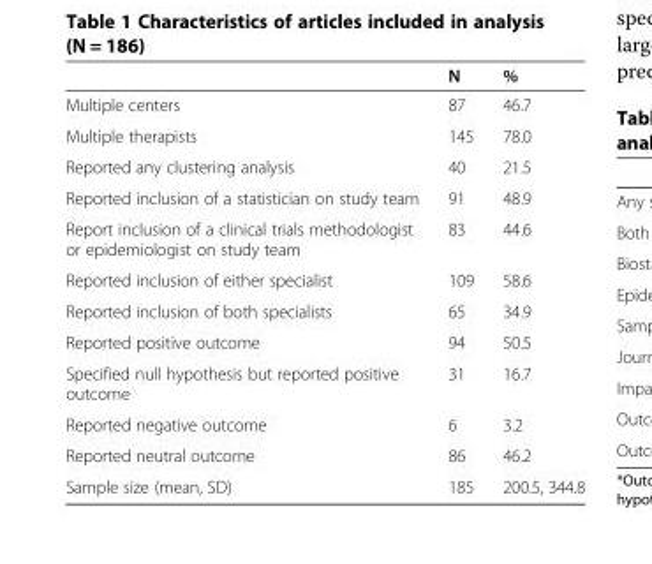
<table><thead><tr><td></td><td>N</td><td>%</td></tr></thead><tbody><tr><td>Multiple centers</td><td>87</td><td>46.7</td></tr><tr><td>Multiple therapists</td><td>145</td><td>78.0</td></tr><tr><td>Reported any clustering analysis</td><td>40</td><td>21.5</td></tr><tr><td>Reported inclusion of a statistician on study team</td><td>91</td><td>48.9</td></tr><tr><td>Report inclusion of a clinical trials methodologist or epidemiologist on study team</td><td>83</td><td>44.6</td></tr><tr><td>Reported inclusion of either specialist</td><td>109</td><td>58.6</td></tr><tr><td>Reported inclusion of both specialists</td><td>65</td><td>34.9</td></tr><tr><td>Reported positive outcome</td><td>94</td><td>50.5</td></tr><tr><td>Specified null hypothesis but reported positive outcome</td><td>31</td><td>16.7</td></tr><tr><td>Reported negative outcome</td><td>6</td><td>3.2</td></tr><tr><td>Reported neutral outcome</td><td>86</td><td>46.2</td></tr><tr><td>Sample size (mean, SD)</td><td>185</td><td>200.5, 344.8</td></tr></tbody></table>